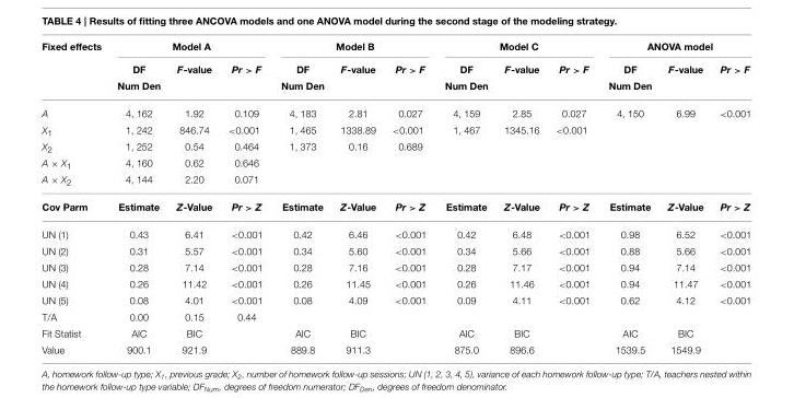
<table><thead><tr><td rowspan="3">Fixed effects</td><td colspan="3">Model A</td><td colspan="3">Model B</td><td colspan="3">Model C</td><td colspan="3">ANOVA model</td></tr><tr><td rowspan="2">DF Num Den</td><td rowspan="2">F-value</td><td rowspan="2">Pr &gt; F</td><td rowspan="2">DF Num Den</td><td rowspan="2">F-value</td><td rowspan="2">Pr &gt; F</td><td rowspan="2">DF Num Den</td><td rowspan="2">F-value</td><td rowspan="2">Pr &gt; F</td><td rowspan="2">DF Num Den</td><td rowspan="2">F-value</td><td rowspan="2">Pr &gt; F</td></tr><tr></tr></thead><tbody><tr><td>A</td><td>4, 162</td><td>1.92</td><td>0.109</td><td>4, 183</td><td>2.81</td><td>0.027</td><td>4, 159</td><td>2.85</td><td>0.027</td><td>4, 150</td><td>6.99</td><td>&lt;0.001</td></tr><tr><td>X<sub>1</sub></td><td>1, 242</td><td>846.74</td><td>&lt;0.001</td><td>1, 465</td><td>1338.89</td><td>&lt;0.001</td><td>1, 467</td><td>1345.16</td><td>&lt;0.001</td><td></td><td></td><td></td></tr><tr><td>X<sub>2</sub></td><td>1, 252</td><td>0.54</td><td>0.464</td><td>1, 373</td><td>0.16</td><td>0.689</td><td></td><td></td><td></td><td></td><td></td><td></td></tr><tr><td>A × X<sub>1</sub></td><td>4, 160</td><td>0.62</td><td>0.646</td><td></td><td></td><td></td><td></td><td></td><td></td><td></td><td></td><td></td></tr><tr><td>A × X<sub>2</sub></td><td>4, 144</td><td>2.20</td><td>0.071</td><td></td><td></td><td></td><td></td><td></td><td></td><td></td><td></td><td></td></tr><tr><td>Cov Parm</td><td>Estimate</td><td>Z-Value</td><td>Pr &gt; Z</td><td>Estimate</td><td>Z-Value</td><td>Pr &gt; Z</td><td>Estimate</td><td>Z-Value</td><td>Pr &gt; Z</td><td>Estimate</td><td>Z-Value</td><td>Pr &gt; Z</td></tr><tr><td>UN (1)</td><td>0.43</td><td>6.41</td><td>&lt;0.001</td><td>0.42</td><td>6.46</td><td>&lt;0.001</td><td>0.42</td><td>6.48</td><td>&lt;0.001</td><td>0.98</td><td>6.52</td><td>&lt;0.001</td></tr><tr><td>UN (2)</td><td>0.31</td><td>5.57</td><td>&lt;0.001</td><td>0.34</td><td>5.60</td><td>&lt;0.001</td><td>0.34</td><td>5.66</td><td>&lt;0.001</td><td>0.88</td><td>5.66</td><td>&lt;0.001</td></tr><tr><td>UN (3)</td><td>0.28</td><td>7.14</td><td>&lt;0.001</td><td>0.28</td><td>7.16</td><td>&lt;0.001</td><td>0.28</td><td>7.17</td><td>&lt;0.001</td><td>0.94</td><td>7.14</td><td>&lt;0.001</td></tr><tr><td>UN (4)</td><td>0.26</td><td>11.42</td><td>&lt;0.001</td><td>0.26</td><td>11.45</td><td>&lt;0.001</td><td>0.26</td><td>11.46</td><td>&lt;0.001</td><td>0.94</td><td>11.47</td><td>&lt;0.001</td></tr><tr><td>UN (5)</td><td>0.08</td><td>4.01</td><td>&lt;0.001</td><td>0.08</td><td>4.09</td><td>&lt;0.001</td><td>0.09</td><td>4.11</td><td>&lt;0.001</td><td>0.62</td><td>4.12</td><td>&lt;0.001</td></tr><tr><td>T/A</td><td>0.00</td><td>0.15</td><td>0.44</td><td></td><td></td><td></td><td></td><td></td><td></td><td></td><td></td><td></td></tr><tr><td>Fit Statist</td><td>AIC</td><td>BIC</td><td></td><td>AIC</td><td>BIC</td><td></td><td>AIC</td><td>BIC</td><td></td><td>AIC</td><td>BIC</td><td></td></tr><tr><td>Value</td><td>900.1</td><td>921.9</td><td></td><td>889.8</td><td>911.3</td><td></td><td>875.0</td><td>896.6</td><td></td><td>1539.5</td><td>1549.9</td><td></td></tr></tbody></table>